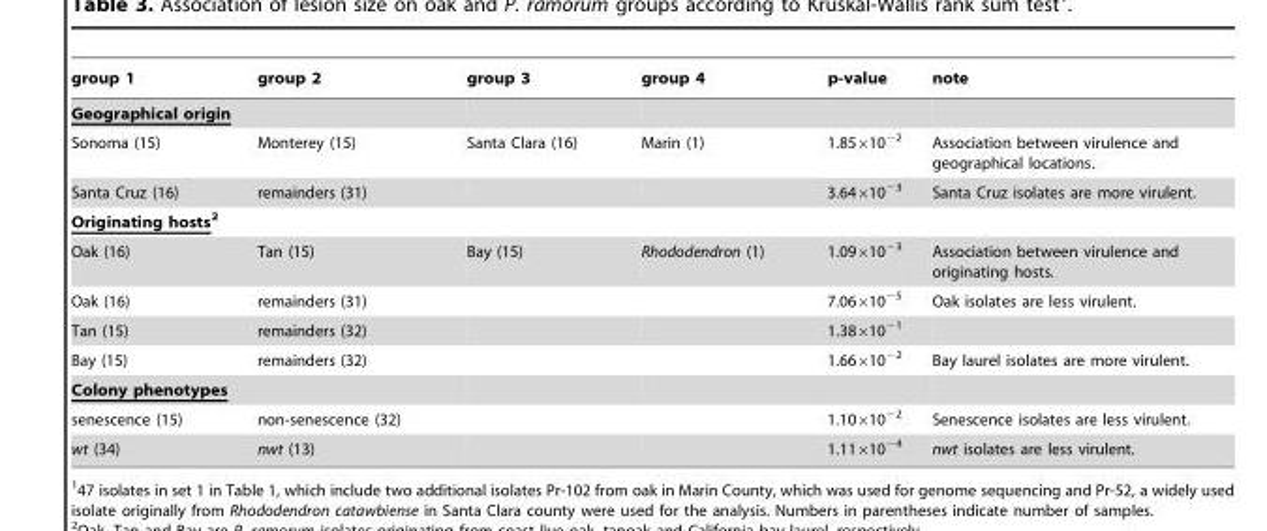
<table><thead><tr><td>group 1</td><td>group 2</td><td>group 3</td><td>group 4</td><td>p-value</td><td>note</td></tr></thead><tbody><tr><td colspan="6">Geographical origin</td></tr><tr><td>Sonoma (15)</td><td>Monterey (15)</td><td>Santa Clara (16)</td><td>Marin (1)</td><td>1.85×10<sup>−2</sup></td><td>Association between virulence and geographical locations.</td></tr><tr><td>Santa Cruz (16)</td><td>remainders (31)</td><td></td><td></td><td>3.64×10<sup>−3</sup></td><td>Santa Cruz isolates are more virulent.</td></tr><tr><td colspan="6">Originating hosts2</td></tr><tr><td>Oak (16)</td><td>Tan (15)</td><td>Bay (15)</td><td>Rhododendron (1)</td><td>1.09×10<sup>−3</sup></td><td>Association between virulence and originating hosts.</td></tr><tr><td>Oak (16)</td><td>remainders (31)</td><td></td><td></td><td>7.06×10<sup>−5</sup></td><td>Oak isolates are less virulent.</td></tr><tr><td>Tan (15)</td><td>remainders (32)</td><td></td><td></td><td>1.38×10<sup>−1</sup></td><td></td></tr><tr><td>Bay (15)</td><td>remainders (32)</td><td></td><td></td><td>1.66×10<sup>−2</sup></td><td>Bay laurel isolates are more virulent.</td></tr><tr><td colspan="6">Colony phenotypes</td></tr><tr><td>senescence (15)</td><td>non-senescence (32)</td><td></td><td></td><td>1.10×10<sup>−2</sup></td><td>Senescence isolates are less virulent.</td></tr><tr><td>wt (34)</td><td>nwt (13)</td><td></td><td></td><td>1.11×10<sup>−4</sup></td><td>nwt isolates are less virulent.</td></tr></tbody></table>